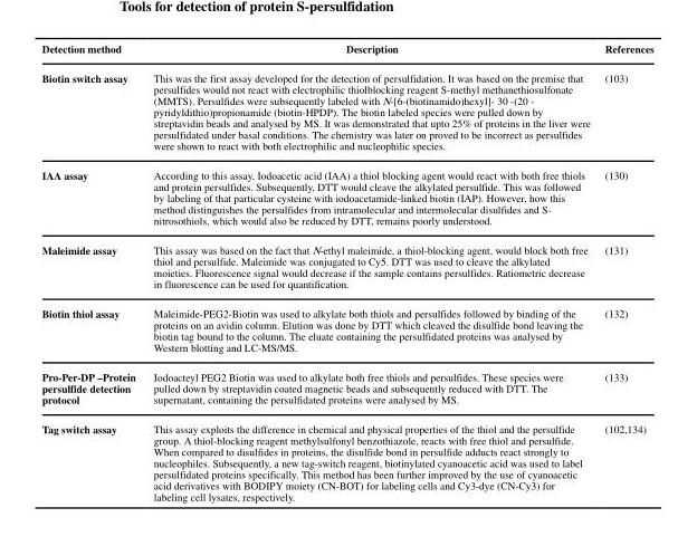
<table><thead><tr><td>Detection method</td><td>Description</td><td>References</td></tr></thead><tbody><tr><td>Biotin switch assay</td><td>This was the first assay developed for the detection of persulfidation. It was based on the premise that persulfides would not react with electrophilic thiolblocking reagent S-methyl methanethiosulfonate (MMTS). Persulfides were subsequently labeled with N-[6-(biotinamido)hexyl]- 30 -(20 - pyridyldithio)propionamide (biotin-HPDP). The biotin labeled species were pulled down by streptavidin beads and analysed by MS. It was demonstrated that upto 25% of proteins in the liver were persulfidated under basal conditions. The chemistry was later on proved to be incorrect as persulfides were shown to react with both electrophilic and nucleophilic species.</td><td>(103)</td></tr><tr><td>IAA assay</td><td>According to this assay, Iodoacetic acid (IAA) a thiol blocking agent would react with both free thiols and protein persulfides. Subsequently, DTT would cleave the alkylated persulfide. This was followed by labeling of that particular cysteine with iodoacetamide-linked biotin (IAP). However, how this method distinguishes the persulfides from intramolecular and intermolecular disulfides and S- nitrosothiols, which would also be reduced by DTT, remains poorly understood.</td><td>(130)</td></tr><tr><td>Maleimide assay</td><td>This assay was based on the fact that N-ethyl maleimide, a thiol-blocking agent, would block both free thiol and persulfide. Maleimide was conjugated to Cy5. DTT was used to cleave the alkylated moieties. Fluorescence signal would decrease if the sample contains persulfides. Ratiometric decrease in fluorescence can be used for quantification.</td><td>(131)</td></tr><tr><td>Biotin thiol assay</td><td>Maleimide-PEG2-Biotin was used to alkylate both thiols and persulfides followed by binding of the proteins on an avidin column. Elution was done by DTT which cleaved the disulfide bond leaving the biotin tag bound to the column. The eluate containing the persulfidated proteins was analysed by Western blotting and LC-MS/MS.</td><td>(132)</td></tr><tr><td>Pro-Per-DP –Protein persulfide detection protocol</td><td>Iodoacteyl PEG2 Biotin was used to alkylate both free thiols and persulfides. These species were pulled down by streptavidin coated magnetic beads and subsequently reduced with DTT. The supernatant, containing the persulfidated proteins were analysed by MS.</td><td>(133)</td></tr><tr><td>Tag switch assay</td><td>This assay exploits the difference in chemical and physical properties of the thiol and the persulfide group. A thiol-blocking reagent methylsulfonyl benzothiazole, reacts with free thiol and persulfide. When compared to disulfides in proteins, the disulfide bond in persulfide adducts react strongly to nucleophiles. Subsequently, a new tag-switch reagent, biotinylated cyanoacetic acid was used to label persulfidated proteins specifically. This method has been further improved by the use of cyanoacetic acid derivatives with BODIPY moiety (CN-BOT) for labeling cells and Cy3-dye (CN-Cy3) for labeling cell lysates, respectively.</td><td>(102,134)</td></tr></tbody></table>